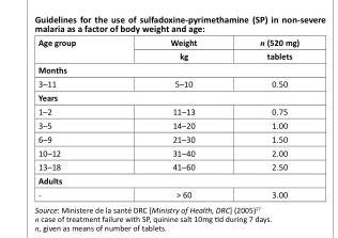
<table><thead><tr><td rowspan="2">Age group</td><td rowspan="2">Weight kg</td><td rowspan="2">n (520 mg) tablets</td></tr><tr></tr></thead><tbody><tr><td colspan="3">Months</td></tr><tr><td>3–11</td><td>5–10</td><td>0.50</td></tr><tr><td colspan="3">Years</td></tr><tr><td>1–2</td><td>11–13</td><td>0.75</td></tr><tr><td>3–5</td><td>14–20</td><td>1.00</td></tr><tr><td>6–9</td><td>21–30</td><td>1.50</td></tr><tr><td>10–12</td><td>31–40</td><td>2.00</td></tr><tr><td>13–18</td><td>41–60</td><td>2.50</td></tr><tr><td colspan="3">Adults</td></tr><tr><td>-</td><td>&gt; 60</td><td>3.00</td></tr></tbody></table>